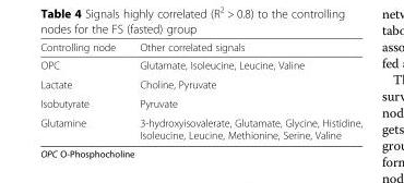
<table><thead><tr><td>Controlling node</td><td>Other correlated signals</td></tr></thead><tbody><tr><td>OPC</td><td>Glutamate, Isoleucine, Leucine, Valine</td></tr><tr><td>Lactate</td><td>Choline, Pyruvate</td></tr><tr><td>Isobutyrate</td><td>Pyruvate</td></tr><tr><td>Glutamine</td><td>3-hydroxyisovalerate, Glutamate, Glycine, Histidine, Isoleucine, Leucine, Methionine, Serine, Valine</td></tr></tbody></table>